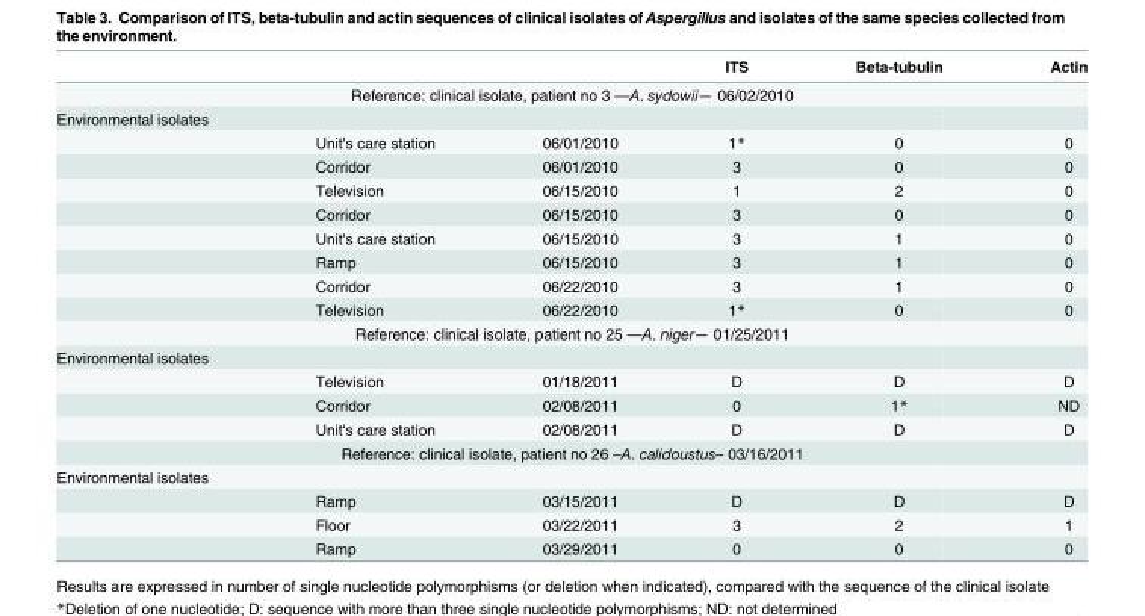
<table><thead><tr><td></td><td></td><td></td><td>ITS</td><td>Beta-tubulin</td><td>Actin</td></tr></thead><tbody><tr><td colspan="6">Reference: clinical isolate, patient no 3 —A. sydowii— 06/02/2010</td></tr><tr><td colspan="6">Environmental isolates</td></tr><tr><td></td><td>Unit&#x27;s care station</td><td>06/01/2010</td><td>1*</td><td>0</td><td>0</td></tr><tr><td></td><td>Corridor</td><td>06/01/2010</td><td>3</td><td>0</td><td>0</td></tr><tr><td></td><td>Television</td><td>06/15/2010</td><td>1</td><td>2</td><td>0</td></tr><tr><td></td><td>Corridor</td><td>06/15/2010</td><td>3</td><td>0</td><td>0</td></tr><tr><td></td><td>Unit&#x27;s care station</td><td>06/15/2010</td><td>3</td><td>1</td><td>0</td></tr><tr><td></td><td>Ramp</td><td>06/15/2010</td><td>3</td><td>1</td><td>0</td></tr><tr><td></td><td>Corridor</td><td>06/22/2010</td><td>3</td><td>1</td><td>0</td></tr><tr><td></td><td>Television</td><td>06/22/2010</td><td>1*</td><td>0</td><td>0</td></tr><tr><td colspan="6">Reference: clinical isolate, patient no 25 —A. niger— 01/25/2011</td></tr><tr><td colspan="6">Environmental isolates</td></tr><tr><td></td><td>Television</td><td>01/18/2011</td><td>D</td><td>D</td><td>D</td></tr><tr><td></td><td>Corridor</td><td>02/08/2011</td><td>0</td><td>1*</td><td>ND</td></tr><tr><td></td><td>Unit&#x27;s care station</td><td>02/08/2011</td><td>D</td><td>D</td><td>D</td></tr><tr><td colspan="6">Reference: clinical isolate, patient no 26 –A. calidoustus– 03/16/2011</td></tr><tr><td colspan="6">Environmental isolates</td></tr><tr><td></td><td>Ramp</td><td>03/15/2011</td><td>D</td><td>D</td><td>D</td></tr><tr><td></td><td>Floor</td><td>03/22/2011</td><td>3</td><td>2</td><td>1</td></tr><tr><td></td><td>Ramp</td><td>03/29/2011</td><td>0</td><td>0</td><td>0</td></tr></tbody></table>